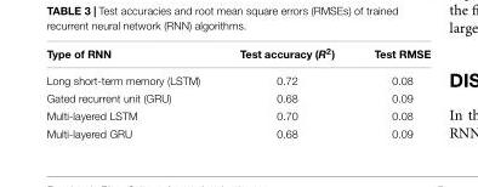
<table><thead><tr><td>Type of RNN</td><td>Test accuracy (R<sup>2</sup>)</td><td>Test RMSE</td></tr></thead><tbody><tr><td>Long short-term memory (LSTM)</td><td>0.72</td><td>0.08</td></tr><tr><td>Gated recurrent unit (GRU)</td><td>0.68</td><td>0.09</td></tr><tr><td>Multi-layered LSTM</td><td>0.70</td><td>0.08</td></tr><tr><td>Multi-layered GRU</td><td>0.68</td><td>0.09</td></tr></tbody></table>